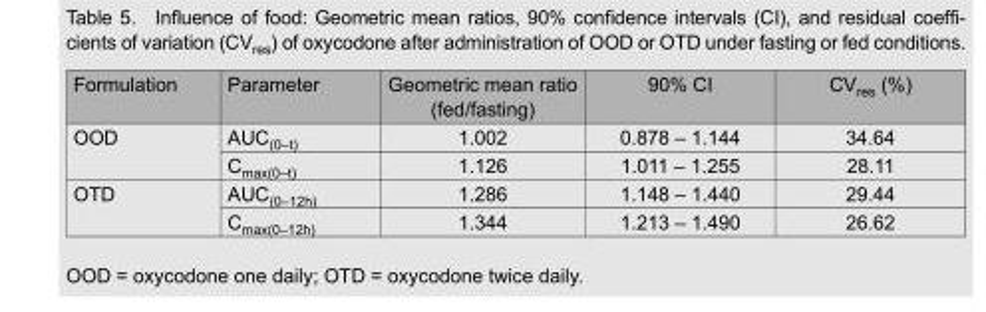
<table><thead><tr><td>Formulation</td><td>Parameter</td><td>Geometric mean ratio (fed/fasting)</td><td>90% CI</td><td>CV<sub>res</sub> (%)</td></tr></thead><tbody><tr><td rowspan="2">OOD</td><td>AUC<sub>(0–t)</sub></td><td>1.002</td><td>0.878 – 1.144</td><td>34.64</td></tr><tr><td>C<sub>max(0–t)</sub></td><td>1.126</td><td>1.011 – 1.255</td><td>28.11</td></tr><tr><td rowspan="2">OTD</td><td>AUC<sub>(0–12h)</sub></td><td>1.286</td><td>1.148 – 1.440</td><td>29.44</td></tr><tr><td>C<sub>max(0–12h)</sub></td><td>1.344</td><td>1.213 – 1.490</td><td>26.62</td></tr></tbody></table>